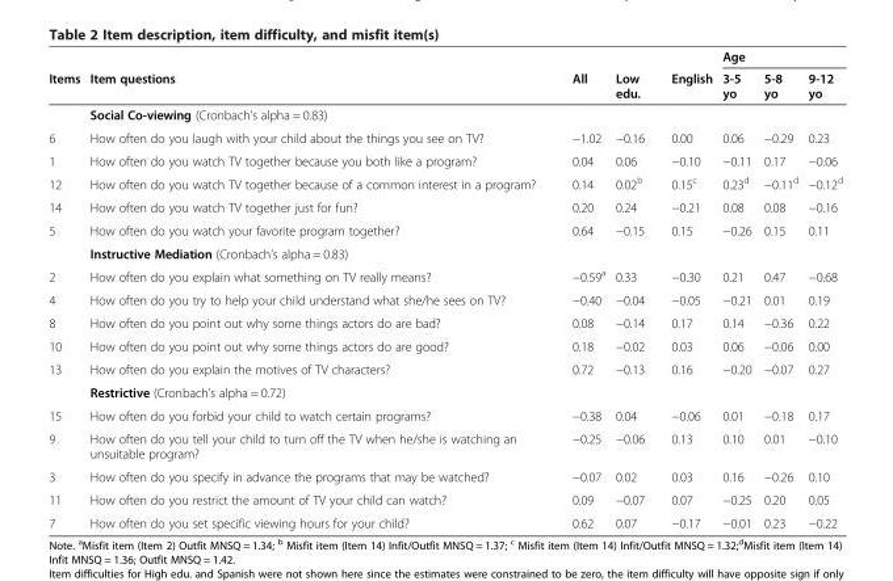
<table><thead><tr><td rowspan="2">Items</td><td rowspan="2">Item questions</td><td rowspan="2">All</td><td rowspan="2">Low edu.</td><td rowspan="2">English</td><td colspan="3">Age</td></tr><tr><td>3-5 yo</td><td>5-8 yo</td><td>9-12 yo</td></tr></thead><tbody><tr><td></td><td>Social Co-viewing (Cronbach’s alpha = 0.83)</td><td></td><td></td><td></td><td></td><td></td><td></td></tr><tr><td>6</td><td>How often do you laugh with your child about the things you see on TV?</td><td>−1.02</td><td>−0.16</td><td>0.00</td><td>0.06</td><td>−0.29</td><td>0.23</td></tr><tr><td>1</td><td>How often do you watch TV together because you both like a program?</td><td>0.04</td><td>0.06</td><td>−0.10</td><td>−0.11</td><td>0.17</td><td>−0.06</td></tr><tr><td>12</td><td>How often do you watch TV together because of a common interest in a program?</td><td>0.14</td><td>0.02<sup>b</sup></td><td>0.15<sup>c</sup></td><td>0.23<sup>d</sup></td><td>−0.11<sup>d</sup></td><td>−0.12<sup>d</sup></td></tr><tr><td>14</td><td>How often do you watch TV together just for fun?</td><td>0.20</td><td>0.24</td><td>−0.21</td><td>0.08</td><td>0.08</td><td>−0.16</td></tr><tr><td rowspan="2">5</td><td>How often do you watch your favorite program together?</td><td>0.64</td><td>−0.15</td><td>0.15</td><td>−0.26</td><td>0.15</td><td>0.11</td></tr><tr><td>Instructive Mediation (Cronbach’s alpha = 0.83)</td><td></td><td></td><td></td><td></td><td></td><td></td></tr><tr><td>2</td><td>How often do you explain what something on TV really means?</td><td>−0.59<sup>a</sup></td><td>0.33</td><td>−0.30</td><td>0.21</td><td>0.47</td><td>−0.68</td></tr><tr><td>4</td><td>How often do you try to help your child understand what she/he sees on TV?</td><td>−0.40</td><td>−0.04</td><td>−0.05</td><td>−0.21</td><td>0.01</td><td>0.19</td></tr><tr><td>8</td><td>How often do you point out why some things actors do are bad?</td><td>0.08</td><td>−0.14</td><td>0.17</td><td>0.14</td><td>−0.36</td><td>0.22</td></tr><tr><td>10</td><td>How often do you point out why some things actors do are good?</td><td>0.18</td><td>−0.02</td><td>0.03</td><td>0.06</td><td>−0.06</td><td>0.00</td></tr><tr><td rowspan="2">13</td><td>How often do you explain the motives of TV characters?</td><td>0.72</td><td>−0.13</td><td>0.16</td><td>−0.20</td><td>−0.07</td><td>0.27</td></tr><tr><td>Restrictive (Cronbach’s alpha = 0.72)</td><td></td><td></td><td></td><td></td><td></td><td></td></tr><tr><td>15</td><td>How often do you forbid your child to watch certain programs?</td><td>−0.38</td><td>0.04</td><td>−0.06</td><td>0.01</td><td>−0.18</td><td>0.17</td></tr><tr><td>9</td><td>How often do you tell your child to turn off the TV when he/she is watching an unsuitable program?</td><td>−0.25</td><td>−0.06</td><td>0.13</td><td>0.10</td><td>0.01</td><td>−0.10</td></tr><tr><td>3</td><td>How often do you specify in advance the programs that may be watched?</td><td>−0.07</td><td>0.02</td><td>0.03</td><td>0.16</td><td>−0.26</td><td>0.10</td></tr><tr><td>11</td><td>How often do you restrict the amount of TV your child can watch?</td><td>0.09</td><td>−0.07</td><td>0.07</td><td>−0.25</td><td>0.20</td><td>0.05</td></tr><tr><td>7</td><td>How often do you set specific viewing hours for your child?</td><td>0.62</td><td>0.07</td><td>−0.17</td><td>−0.01</td><td>0.23</td><td>−0.22</td></tr></tbody></table>